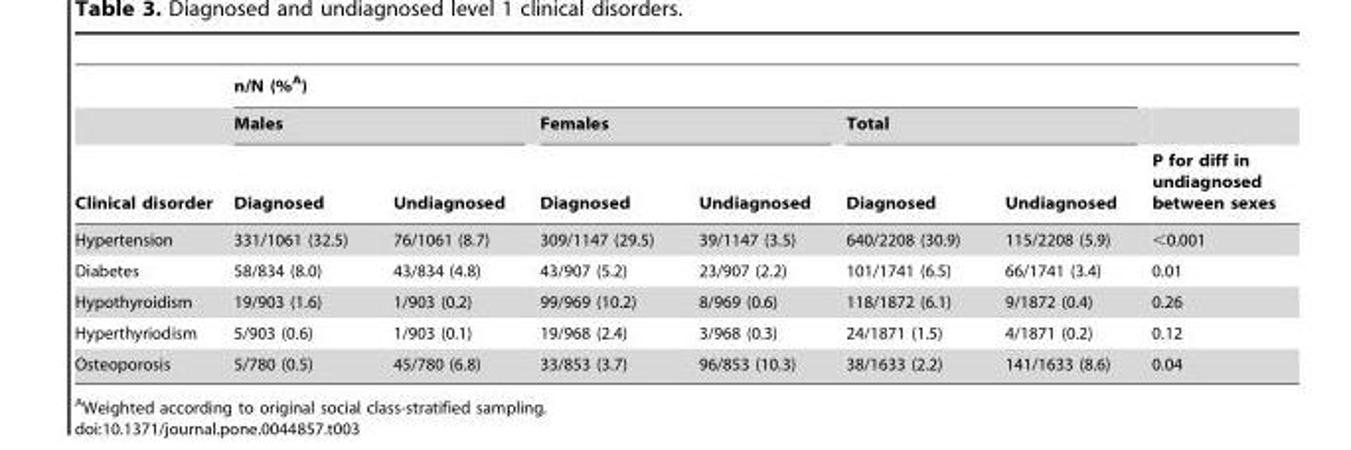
<table><thead><tr><td rowspan="3">Clinical disorder</td><td colspan="6">n/N (%<sup>A</sup>)</td><td rowspan="3">P for diff in undiagnosed between sexes</td></tr><tr><td colspan="2">Males</td><td colspan="2">Females</td><td colspan="2">Total</td></tr><tr><td>Diagnosed</td><td>Undiagnosed</td><td>Diagnosed</td><td>Undiagnosed</td><td>Diagnosed</td><td>Undiagnosed</td></tr></thead><tbody><tr><td>Hypertension</td><td>331/1061 (32.5)</td><td>76/1061 (8.7)</td><td>309/1147 (29.5)</td><td>39/1147 (3.5)</td><td>640/2208 (30.9)</td><td>115/2208 (5.9)</td><td>&lt;0.001</td></tr><tr><td>Diabetes</td><td>58/834 (8.0)</td><td>43/834 (4.8)</td><td>43/907 (5.2)</td><td>23/907 (2.2)</td><td>101/1741 (6.5)</td><td>66/1741 (3.4)</td><td>0.01</td></tr><tr><td>Hypothyroidism</td><td>19/903 (1.6)</td><td>1/903 (0.2)</td><td>99/969 (10.2)</td><td>8/969 (0.6)</td><td>118/1872 (6.1)</td><td>9/1872 (0.4)</td><td>0.26</td></tr><tr><td>Hyperthyriodism</td><td>5/903 (0.6)</td><td>1/903 (0.1)</td><td>19/968 (2.4)</td><td>3/968 (0.3)</td><td>24/1871 (1.5)</td><td>4/1871 (0.2)</td><td>0.12</td></tr><tr><td>Osteoporosis</td><td>5/780 (0.5)</td><td>45/780 (6.8)</td><td>33/853 (3.7)</td><td>96/853 (10.3)</td><td>38/1633 (2.2)</td><td>141/1633 (8.6)</td><td>0.04</td></tr></tbody></table>